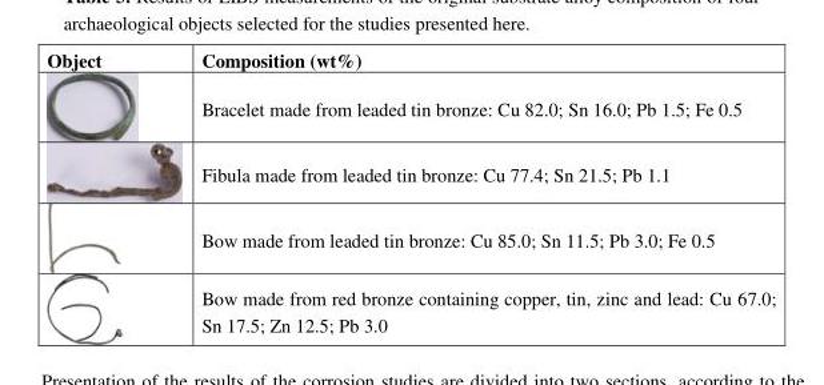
<table><thead><tr><td>Object</td><td>Composition (wt%)</td></tr></thead><tbody><tr><td></td><td>Bracelet made from leaded tin bronze: Cu 82.0; Sn 16.0; Pb 1.5; Fe 0.5</td></tr><tr><td></td><td>Fibula made from leaded tin bronze: Cu 77.4; Sn 21.5; Pb 1.1</td></tr><tr><td></td><td>Bow made from leaded tin bronze: Cu 85.0; Sn 11.5; Pb 3.0; Fe 0.5</td></tr><tr><td></td><td>Bow made from red bronze containing copper, tin, zinc and lead: Cu 67.0; Sn 17.5; Zn 12.5; Pb 3.0</td></tr></tbody></table>